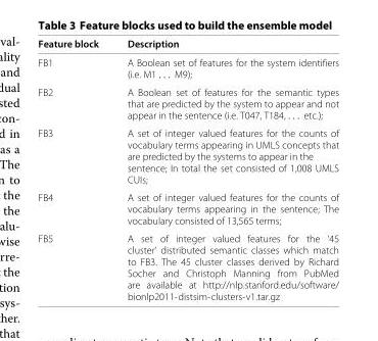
<table><thead><tr><td>Feature block</td><td>Description</td></tr></thead><tbody><tr><td>FB1</td><td>A Boolean set of features for the system identifiers (i.e. M1 . . . M9);</td></tr><tr><td>FB2</td><td>A Boolean set of features for the semantic types that are predicted by the system to appear and not appear in the sentence (i.e. T047, T184, . . . etc.);</td></tr><tr><td>FB3</td><td>A set of integer valued features for the counts of vocabulary terms appearing in UMLS concepts that are predicted by the systems to appear in the sentence; In total the set consisted of 1,008 UMLS CUIs;</td></tr><tr><td>FB4</td><td>A set of integer valued features for the counts of vocabulary terms appearing in the sentence; The vocabulary consisted of 13,565 terms;</td></tr><tr><td>FB5</td><td>A set of integer valued features for the ‘45 cluster’ distributed semantic classes which match to FB3. The 45 cluster classes derived by Richard Socher and Christoph Manning from PubMed are available at http://nlp.stanford.edu/software/ bionlp2011-distsim-clusters-v1.tar.gz</td></tr></tbody></table>